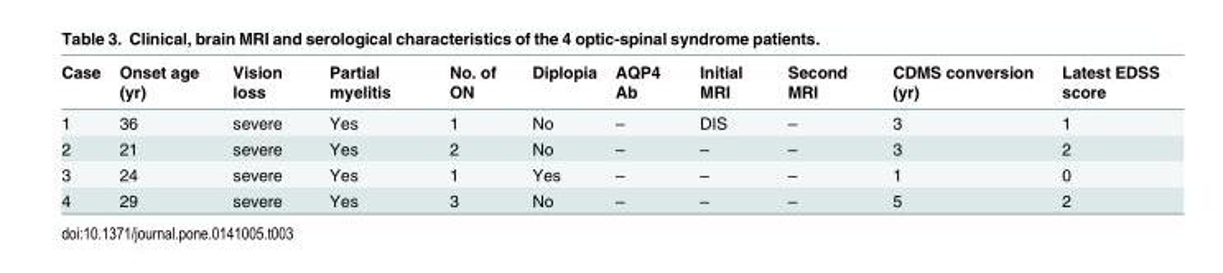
<table><thead><tr><td>Case</td><td>Onset age (yr)</td><td>Vision loss</td><td>Partial myelitis</td><td>No. of ON</td><td>Diplopia</td><td>AQP4 Ab</td><td>Initial MRI</td><td>Second MRI</td><td>CDMS conversion (yr)</td><td>Latest EDSS score</td></tr></thead><tbody><tr><td>1</td><td>36</td><td>severe</td><td>Yes</td><td>1</td><td>No</td><td>–</td><td>DIS</td><td>–</td><td>3</td><td>1</td></tr><tr><td>2</td><td>21</td><td>severe</td><td>Yes</td><td>2</td><td>No</td><td>–</td><td>–</td><td>–</td><td>3</td><td>2</td></tr><tr><td>3</td><td>24</td><td>severe</td><td>Yes</td><td>1</td><td>Yes</td><td>–</td><td>–</td><td>–</td><td>1</td><td>0</td></tr><tr><td>4</td><td>29</td><td>severe</td><td>Yes</td><td>3</td><td>No</td><td>–</td><td>–</td><td>–</td><td>5</td><td>2</td></tr></tbody></table>